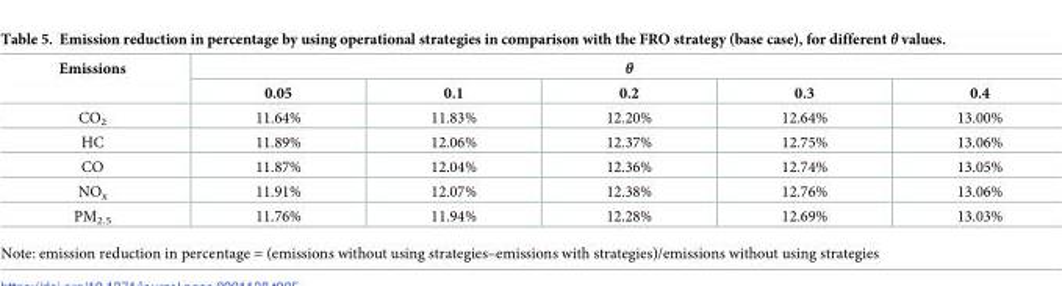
<table><thead><tr><td rowspan="2">Emissions</td><td colspan="5">θ</td></tr><tr><td>0.05</td><td>0.1</td><td>0.2</td><td>0.3</td><td>0.4</td></tr></thead><tbody><tr><td>CO<sub>2</sub></td><td>11.64%</td><td>11.83%</td><td>12.20%</td><td>12.64%</td><td>13.00%</td></tr><tr><td>HC</td><td>11.89%</td><td>12.06%</td><td>12.37%</td><td>12.75%</td><td>13.06%</td></tr><tr><td>CO</td><td>11.87%</td><td>12.04%</td><td>12.36%</td><td>12.74%</td><td>13.05%</td></tr><tr><td>NO<sub>x</sub></td><td>11.91%</td><td>12.07%</td><td>12.38%</td><td>12.76%</td><td>13.06%</td></tr><tr><td>PM<sub>2.5</sub></td><td>11.76%</td><td>11.94%</td><td>12.28%</td><td>12.69%</td><td>13.03%</td></tr></tbody></table>